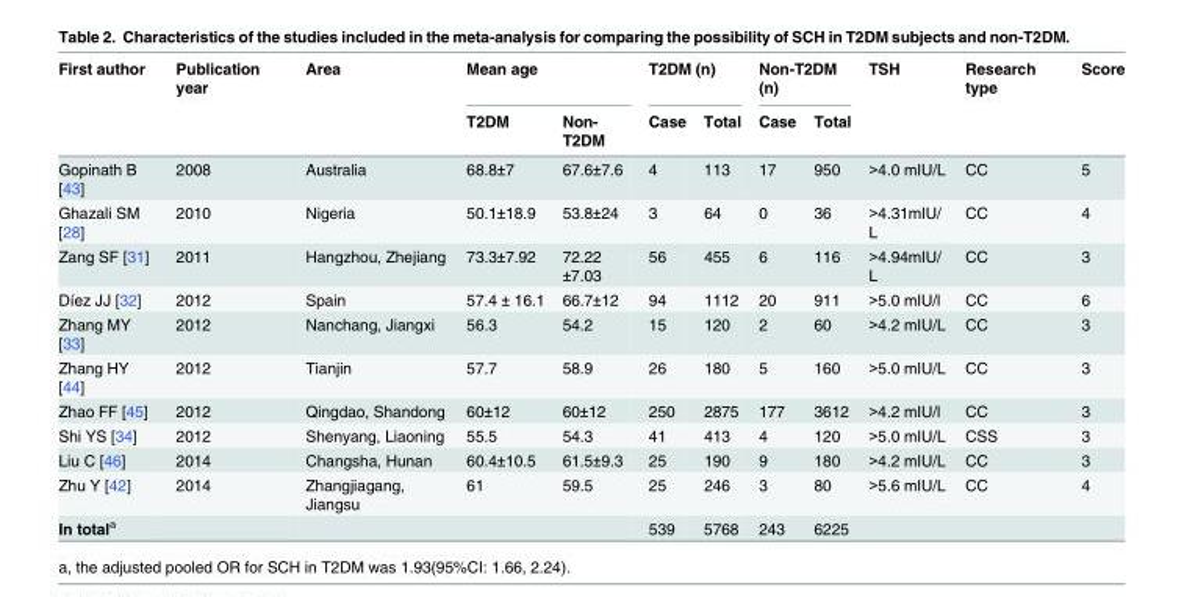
<table><thead><tr><td rowspan="2">First author</td><td rowspan="2">Publication year</td><td rowspan="2">Area</td><td colspan="2">Mean age</td><td colspan="2">T2DM (n)</td><td colspan="2">Non-T2DM (n)</td><td rowspan="2">TSH</td><td rowspan="2">Research type</td><td rowspan="2">Score</td></tr><tr><td>T2DM</td><td>Non- T2DM</td><td>Case</td><td>Total</td><td>Case</td><td>Total</td></tr></thead><tbody><tr><td>Gopinath B [43]</td><td>2008</td><td>Australia</td><td>68.8±7</td><td>67.6±7.6</td><td>4</td><td>113</td><td>17</td><td>950</td><td>&gt;4.0 mIU/L</td><td>CC</td><td>5</td></tr><tr><td>Ghazali SM [28]</td><td>2010</td><td>Nigeria</td><td>50.1±18.9</td><td>53.8±24</td><td>3</td><td>64</td><td>0</td><td>36</td><td>&gt;4.31mIU/ L</td><td>CC</td><td>4</td></tr><tr><td>Zang SF [31]</td><td>2011</td><td>Hangzhou, Zhejiang</td><td>73.3±7.92</td><td>72.22 ±7.03</td><td>56</td><td>455</td><td>6</td><td>116</td><td>&gt;4.94mIU/ L</td><td>CC</td><td>3</td></tr><tr><td>Díez JJ [32]</td><td>2012</td><td>Spain</td><td>57.4 ± 16.1</td><td>66.7±12</td><td>94</td><td>1112</td><td>20</td><td>911</td><td>&gt;5.0 mIU/l</td><td>CC</td><td>6</td></tr><tr><td>Zhang MY [33]</td><td>2012</td><td>Nanchang, Jiangxi</td><td>56.3</td><td>54.2</td><td>15</td><td>120</td><td>2</td><td>60</td><td>&gt;4.2 mIU/L</td><td>CC</td><td>3</td></tr><tr><td>Zhang HY [44]</td><td>2012</td><td>Tianjin</td><td>57.7</td><td>58.9</td><td>26</td><td>180</td><td>5</td><td>160</td><td>&gt;5.0 mIU/L</td><td>CC</td><td>3</td></tr><tr><td>Zhao FF [45]</td><td>2012</td><td>Qingdao, Shandong</td><td>60±12</td><td>60±12</td><td>250</td><td>2875</td><td>177</td><td>3612</td><td>&gt;4.2 mIU/l</td><td>CC</td><td>3</td></tr><tr><td>Shi YS [34]</td><td>2012</td><td>Shenyang, Liaoning</td><td>55.5</td><td>54.3</td><td>41</td><td>413</td><td>4</td><td>120</td><td>&gt;5.0 mIU/L</td><td>CSS</td><td>3</td></tr><tr><td>Liu C [46]</td><td>2014</td><td>Changsha, Hunan</td><td>60.4±10.5</td><td>61.5±9.3</td><td>25</td><td>190</td><td>9</td><td>180</td><td>&gt;4.2 mIU/L</td><td>CC</td><td>3</td></tr><tr><td>Zhu Y [42]</td><td>2014</td><td>Zhangjiagang, Jiangsu</td><td>61</td><td>59.5</td><td>25</td><td>246</td><td>3</td><td>80</td><td>&gt;5.6 mIU/L</td><td>CC</td><td>4</td></tr><tr><td>In total<sup>a</sup></td><td></td><td></td><td></td><td></td><td>539</td><td>5768</td><td>243</td><td>6225</td><td></td><td></td><td></td></tr></tbody></table>